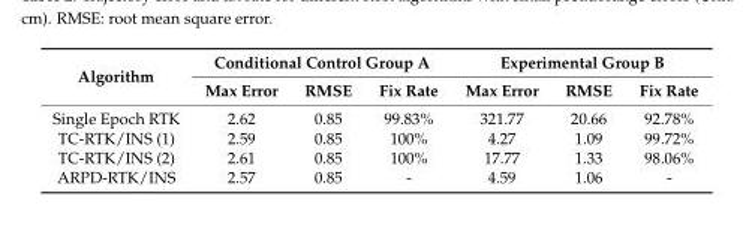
<table><thead><tr><td rowspan="2">Algorithm</td><td colspan="3">Conditional Control Group A</td><td colspan="3">Experimental Group B</td></tr><tr><td>Max Error</td><td>RMSE</td><td>Fix Rate</td><td>Max Error</td><td>RMSE</td><td>Fix Rate</td></tr></thead><tbody><tr><td>Single Epoch RTK</td><td>2.62</td><td>0.85</td><td>99.83%</td><td>321.77</td><td>20.66</td><td>92.78%</td></tr><tr><td>TC-RTK/INS (1)</td><td>2.59</td><td>0.85</td><td>100%</td><td>4.27</td><td>1.09</td><td>99.72%</td></tr><tr><td>TC-RTK/INS (2)</td><td>2.61</td><td>0.85</td><td>100%</td><td>17.77</td><td>1.33</td><td>98.06%</td></tr><tr><td>ARPD-RTK/INS</td><td>2.57</td><td>0.85</td><td>-</td><td>4.59</td><td>1.06</td><td>-</td></tr></tbody></table>